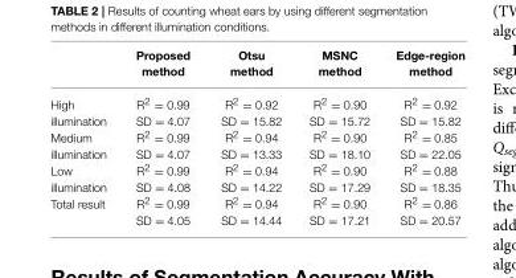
<table><thead><tr><td></td><td>Proposed method</td><td>Otsu method</td><td>MSNC method</td><td>Edge-region method</td></tr></thead><tbody><tr><td>High</td><td>R<sup>2</sup> = 0.99</td><td>R<sup>2</sup> = 0.92</td><td>R<sup>2</sup> = 0.90</td><td>R<sup>2</sup> = 0.92</td></tr><tr><td>illumination</td><td>SD = 4.07</td><td>SD = 15.82</td><td>SD = 15.72</td><td>SD = 15.82</td></tr><tr><td>Medium</td><td>R<sup>2</sup> = 0.99</td><td>R<sup>2</sup> = 0.94</td><td>R<sup>2</sup> = 0.90</td><td>R<sup>2</sup> = 0.85</td></tr><tr><td>illumination</td><td>SD = 4.07</td><td>SD = 13.33</td><td>SD = 18.10</td><td>SD = 22.05</td></tr><tr><td>Low</td><td>R<sup>2</sup> = 0.99</td><td>R<sup>2</sup> = 0.94</td><td>R<sup>2</sup> = 0.90</td><td>R<sup>2</sup> = 0.88</td></tr><tr><td>illumination</td><td>SD = 4.08</td><td>SD = 14.22</td><td>SD = 17.29</td><td>SD = 18.35</td></tr><tr><td rowspan="2">Total result</td><td>R<sup>2</sup> = 0.99</td><td>R<sup>2</sup> = 0.94</td><td>R<sup>2</sup> = 0.90</td><td>R<sup>2</sup> = 0.86</td></tr><tr><td>SD = 4.05</td><td>SD = 14.44</td><td>SD = 17.21</td><td>SD = 20.57</td></tr></tbody></table>